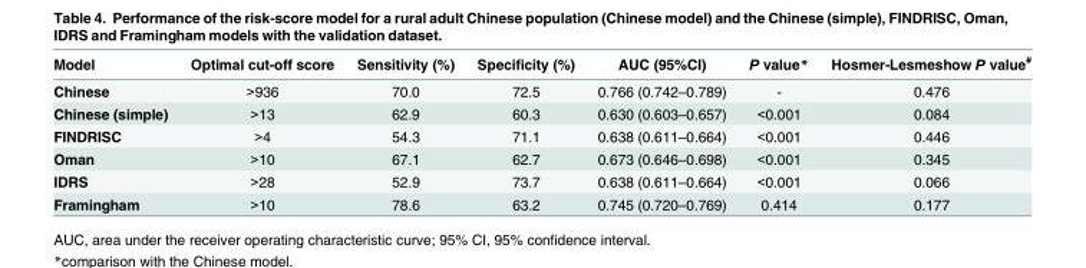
<table><thead><tr><td>Model</td><td>Optimal cut-off score</td><td>Sensitivity (%)</td><td>Specificity (%)</td><td>AUC (95%CI)</td><td>P value*</td><td>Hosmer-Lesmeshow P value<sup>#</sup></td></tr></thead><tbody><tr><td>Chinese</td><td>&gt;936</td><td>70.0</td><td>72.5</td><td>0.766 (0.742–0.789)</td><td>-</td><td>0.476</td></tr><tr><td>Chinese (simple)</td><td>&gt;13</td><td>62.9</td><td>60.3</td><td>0.630 (0.603–0.657)</td><td>&lt;0.001</td><td>0.084</td></tr><tr><td>FINDRISC</td><td>&gt;4</td><td>54.3</td><td>71.1</td><td>0.638 (0.611–0.664)</td><td>&lt;0.001</td><td>0.446</td></tr><tr><td>Oman</td><td>&gt;10</td><td>67.1</td><td>62.7</td><td>0.673 (0.646–0.698)</td><td>&lt;0.001</td><td>0.345</td></tr><tr><td>IDRS</td><td>&gt;28</td><td>52.9</td><td>73.7</td><td>0.638 (0.611–0.664)</td><td>&lt;0.001</td><td>0.066</td></tr><tr><td>Framingham</td><td>&gt;10</td><td>78.6</td><td>63.2</td><td>0.745 (0.720–0.769)</td><td>0.414</td><td>0.177</td></tr></tbody></table>